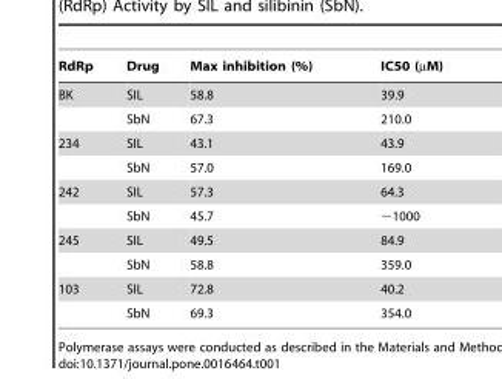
<table><thead><tr><td>RdRp</td><td>Drug</td><td>Max inhibition (%)</td><td>IC50 (µM)</td></tr></thead><tbody><tr><td rowspan="2">BK</td><td>SIL</td><td>58.8</td><td>39.9</td></tr><tr><td>SbN</td><td>67.3</td><td>210.0</td></tr><tr><td rowspan="2">234</td><td>SIL</td><td>43.1</td><td>43.9</td></tr><tr><td>SbN</td><td>57.0</td><td>169.0</td></tr><tr><td rowspan="2">242</td><td>SIL</td><td>57.3</td><td>64.3</td></tr><tr><td>SbN</td><td>45.7</td><td>∼1000</td></tr><tr><td rowspan="2">245</td><td>SIL</td><td>49.5</td><td>84.9</td></tr><tr><td>SbN</td><td>58.8</td><td>359.0</td></tr><tr><td rowspan="2">103</td><td>SIL</td><td>72.8</td><td>40.2</td></tr><tr><td>SbN</td><td>69.3</td><td>354.0</td></tr></tbody></table>